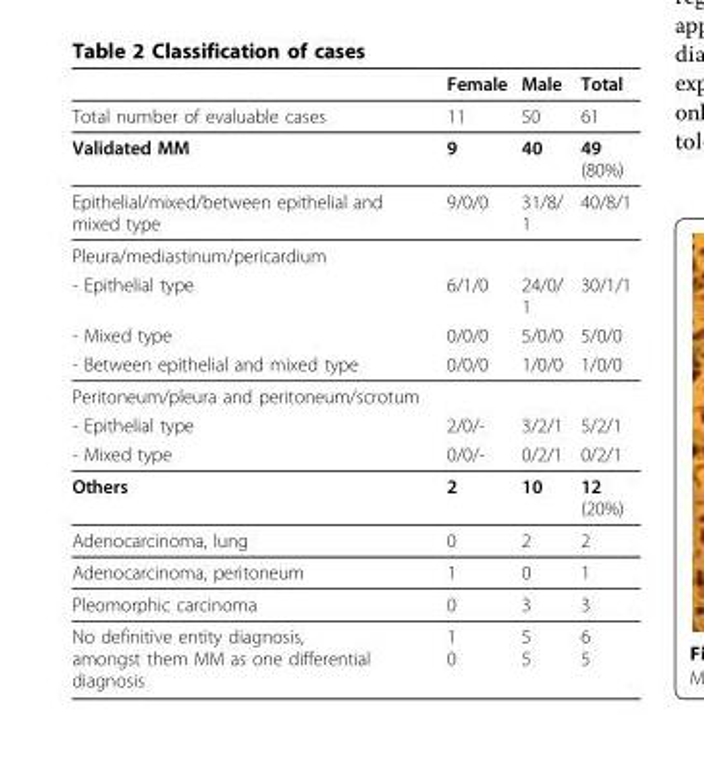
<table><thead><tr><td></td><td>Female</td><td>Male</td><td>Total</td></tr></thead><tbody><tr><td>Total number of evaluable cases</td><td>11</td><td>50</td><td>61</td></tr><tr><td>Validated MM</td><td>9</td><td>40</td><td>49 (80%)</td></tr><tr><td>Epithelial/mixed/between epithelial and mixed type</td><td>9/0/0</td><td>31/8/ 1</td><td>40/8/1</td></tr><tr><td colspan="4">Pleura/mediastinum/pericardium</td></tr><tr><td>- Epithelial type</td><td>6/1/0</td><td>24/0/ 1</td><td>30/1/1</td></tr><tr><td>- Mixed type</td><td>0/0/0</td><td>5/0/0</td><td>5/0/0</td></tr><tr><td>- Between epithelial and mixed type</td><td>0/0/0</td><td>1/0/0</td><td>1/0/0</td></tr><tr><td colspan="4">Peritoneum/pleura and peritoneum/scrotum</td></tr><tr><td>- Epithelial type</td><td>2/0/-</td><td>3/2/1</td><td>5/2/1</td></tr><tr><td>- Mixed type</td><td>0/0/-</td><td>0/2/1</td><td>0/2/1</td></tr><tr><td>Others</td><td>2</td><td>10</td><td>12 (20%)</td></tr><tr><td>Adenocarcinoma, lung</td><td>0</td><td>2</td><td>2</td></tr><tr><td>Adenocarcinoma, peritoneum</td><td>1</td><td>0</td><td>1</td></tr><tr><td>Pleomorphic carcinoma</td><td>0</td><td>3</td><td>3</td></tr><tr><td>No definitive entity diagnosis, amongst them MM as one differential diagnosis</td><td>1 0</td><td>5 5</td><td>6 5</td></tr></tbody></table>